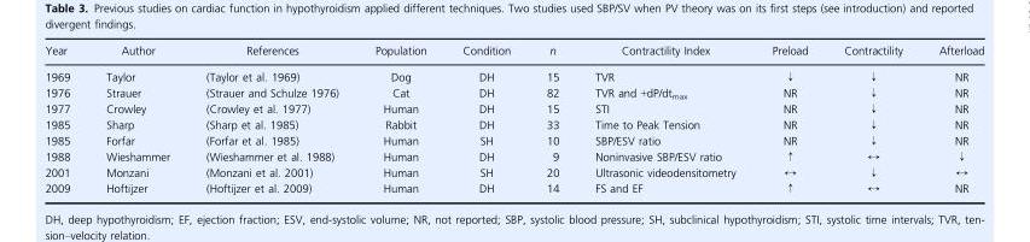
<table><thead><tr><td>Year</td><td>Author</td><td>References</td><td>Population</td><td>Condition</td><td>n</td><td>Contractility Index</td><td>Preload</td><td>Contractility</td><td>Afterload</td></tr></thead><tbody><tr><td>1969</td><td>Taylor</td><td>(Taylor et al. 1969)</td><td>Dog</td><td>DH</td><td>15</td><td>TVR</td><td>↓</td><td>↓</td><td>NR</td></tr><tr><td>1976</td><td>Strauer</td><td>(Strauer and Schulze 1976)</td><td>Cat</td><td>DH</td><td>82</td><td>TVR and +dP/dt<sub>max</sub></td><td>NR</td><td>↓</td><td>NR</td></tr><tr><td>1977</td><td>Crowley</td><td>(Crowley et al. 1977)</td><td>Human</td><td>DH</td><td>15</td><td>STI</td><td>NR</td><td>↓</td><td>NR</td></tr><tr><td>1985</td><td>Sharp</td><td>(Sharp et al. 1985)</td><td>Rabbit</td><td>DH</td><td>33</td><td>Time to Peak Tension</td><td>NR</td><td>↓</td><td>NR</td></tr><tr><td>1985</td><td>Forfar</td><td>(Forfar et al. 1985)</td><td>Human</td><td>SH</td><td>10</td><td>SBP/ESV ratio</td><td>NR</td><td>↓</td><td>NR</td></tr><tr><td>1988</td><td>Wieshammer</td><td>(Wieshammer et al. 1988)</td><td>Human</td><td>DH</td><td>9</td><td>Noninvasive SBP/ESV ratio</td><td>↑</td><td>↔</td><td>↓</td></tr><tr><td>2001</td><td>Monzani</td><td>(Monzani et al. 2001)</td><td>Human</td><td>SH</td><td>20</td><td>Ultrasonic videodensitometry</td><td>↔</td><td>↓</td><td>↔</td></tr><tr><td>2009</td><td>Hoftijzer</td><td>(Hoftijzer et al. 2009)</td><td>Human</td><td>DH</td><td>14</td><td>FS and EF</td><td>↑</td><td>↔</td><td>NR</td></tr></tbody></table>